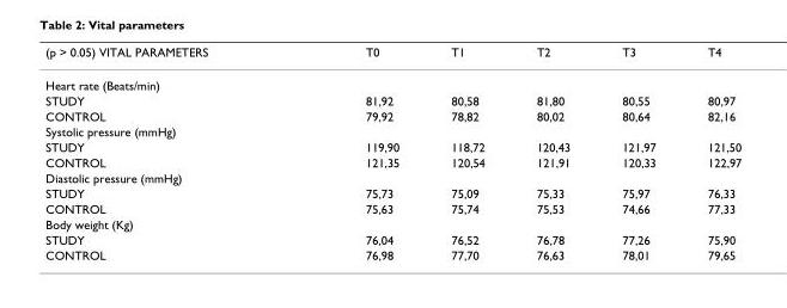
<table><thead><tr><td>(p &gt; 0.05) VITAL PARAMETERS</td><td>T0</td><td>T1</td><td>T2</td><td>T3</td><td>T4</td></tr></thead><tbody><tr><td colspan="6">Heart rate (Beats/min)</td></tr><tr><td>STUDY</td><td>81,92</td><td>80,58</td><td>81,80</td><td>80,55</td><td>80,97</td></tr><tr><td>CONTROL</td><td>79,92</td><td>78,82</td><td>80,02</td><td>80,64</td><td>82,16</td></tr><tr><td colspan="6">Systolic pressure (mmHg)</td></tr><tr><td>STUDY</td><td>119,90</td><td>118,72</td><td>120,43</td><td>121,97</td><td>121,50</td></tr><tr><td>CONTROL</td><td>121,35</td><td>120,54</td><td>121,91</td><td>120,33</td><td>122,97</td></tr><tr><td colspan="6">Diastolic pressure (mmHg)</td></tr><tr><td>STUDY</td><td>75,73</td><td>75,09</td><td>75,33</td><td>75,97</td><td>76,33</td></tr><tr><td>CONTROL</td><td>75,63</td><td>75,74</td><td>75,53</td><td>74,66</td><td>77,33</td></tr><tr><td colspan="6">Body weight (Kg)</td></tr><tr><td>STUDY</td><td>76,04</td><td>76,52</td><td>76,78</td><td>77,26</td><td>75,90</td></tr><tr><td>CONTROL</td><td>76,98</td><td>77,70</td><td>76,63</td><td>78,01</td><td>79,65</td></tr></tbody></table>